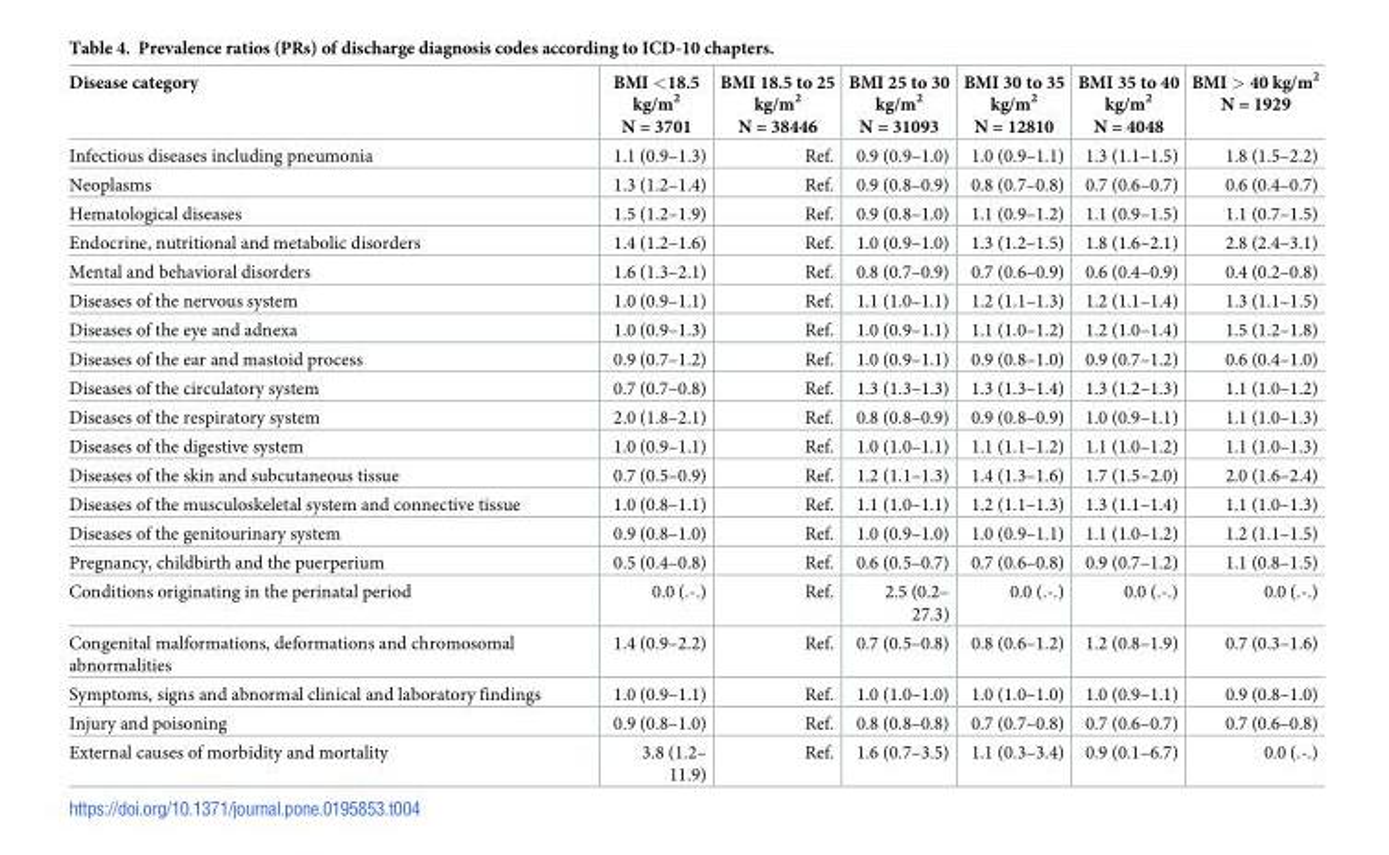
<table><thead><tr><td>Disease category</td><td>BMI &lt;18.5 kg/m<sup>2</sup> N = 3701</td><td>BMI 18.5 to 25 kg/m<sup>2</sup> N = 38446</td><td>BMI 25 to 30 kg/m<sup>2</sup> N = 31093</td><td>BMI 30 to 35 kg/m<sup>2</sup> N = 12810</td><td>BMI 35 to 40 kg/m<sup>2</sup> N = 4048</td><td>BMI &gt; 40 kg/m<sup>2</sup> N = 1929</td></tr></thead><tbody><tr><td>Infectious diseases including pneumonia</td><td>1.1 (0.9–1.3)</td><td>Ref.</td><td>0.9 (0.9–1.0)</td><td>1.0 (0.9–1.1)</td><td>1.3 (1.1–1.5)</td><td>1.8 (1.5–2.2)</td></tr><tr><td>Neoplasms</td><td>1.3 (1.2–1.4)</td><td>Ref.</td><td>0.9 (0.8–0.9)</td><td>0.8 (0.7–0.8)</td><td>0.7 (0.6–0.7)</td><td>0.6 (0.4–0.7)</td></tr><tr><td>Hematological diseases</td><td>1.5 (1.2–1.9)</td><td>Ref.</td><td>0.9 (0.8–1.0)</td><td>1.1 (0.9–1.2)</td><td>1.1 (0.9–1.5)</td><td>1.1 (0.7–1.5)</td></tr><tr><td>Endocrine, nutritional and metabolic disorders</td><td>1.4 (1.2–1.6)</td><td>Ref.</td><td>1.0 (0.9–1.0)</td><td>1.3 (1.2–1.5)</td><td>1.8 (1.6–2.1)</td><td>2.8 (2.4–3.1)</td></tr><tr><td>Mental and behavioral disorders</td><td>1.6 (1.3–2.1)</td><td>Ref.</td><td>0.8 (0.7–0.9)</td><td>0.7 (0.6–0.9)</td><td>0.6 (0.4–0.9)</td><td>0.4 (0.2–0.8)</td></tr><tr><td>Diseases of the nervous system</td><td>1.0 (0.9–1.1)</td><td>Ref.</td><td>1.1 (1.0–1.1)</td><td>1.2 (1.1–1.3)</td><td>1.2 (1.1–1.4)</td><td>1.3 (1.1–1.5)</td></tr><tr><td>Diseases of the eye and adnexa</td><td>1.0 (0.9–1.3)</td><td>Ref.</td><td>1.0 (0.9–1.1)</td><td>1.1 (1.0–1.2)</td><td>1.2 (1.0–1.4)</td><td>1.5 (1.2–1.8)</td></tr><tr><td>Diseases of the ear and mastoid process</td><td>0.9 (0.7–1.2)</td><td>Ref.</td><td>1.0 (0.9–1.1)</td><td>0.9 (0.8–1.0)</td><td>0.9 (0.7–1.2)</td><td>0.6 (0.4–1.0)</td></tr><tr><td>Diseases of the circulatory system</td><td>0.7 (0.7–0.8)</td><td>Ref.</td><td>1.3 (1.3–1.3)</td><td>1.3 (1.3–1.4)</td><td>1.3 (1.2–1.3)</td><td>1.1 (1.0–1.2)</td></tr><tr><td>Diseases of the respiratory system</td><td>2.0 (1.8–2.1)</td><td>Ref.</td><td>0.8 (0.8–0.9)</td><td>0.9 (0.8–0.9)</td><td>1.0 (0.9–1.1)</td><td>1.1 (1.0–1.3)</td></tr><tr><td>Diseases of the digestive system</td><td>1.0 (0.9–1.1)</td><td>Ref.</td><td>1.0 (1.0–1.1)</td><td>1.1 (1.1–1.2)</td><td>1.1 (1.0–1.2)</td><td>1.1 (1.0–1.3)</td></tr><tr><td>Diseases of the skin and subcutaneous tissue</td><td>0.7 (0.5–0.9)</td><td>Ref.</td><td>1.2 (1.1–1.3)</td><td>1.4 (1.3–1.6)</td><td>1.7 (1.5–2.0)</td><td>2.0 (1.6–2.4)</td></tr><tr><td>Diseases of the musculoskeletal system and connective tissue</td><td>1.0 (0.8–1.1)</td><td>Ref.</td><td>1.1 (1.0–1.1)</td><td>1.2 (1.1–1.3)</td><td>1.3 (1.1–1.4)</td><td>1.1 (1.0–1.3)</td></tr><tr><td>Diseases of the genitourinary system</td><td>0.9 (0.8–1.0)</td><td>Ref.</td><td>1.0 (0.9–1.0)</td><td>1.0 (0.9–1.1)</td><td>1.1 (1.0–1.2)</td><td>1.2 (1.1–1.5)</td></tr><tr><td>Pregnancy, childbirth and the puerperium</td><td>0.5 (0.4–0.8)</td><td>Ref.</td><td>0.6 (0.5–0.7)</td><td>0.7 (0.6–0.8)</td><td>0.9 (0.7–1.2)</td><td>1.1 (0.8–1.5)</td></tr><tr><td>Conditions originating in the perinatal period</td><td>0.0 (.-.)</td><td>Ref.</td><td>2.5 (0.2– 27.3)</td><td>0.0 (.-.)</td><td>0.0 (.-.)</td><td>0.0 (.-.)</td></tr><tr><td>Congenital malformations, deformations and chromosomal abnormalities</td><td>1.4 (0.9–2.2)</td><td>Ref.</td><td>0.7 (0.5–0.8)</td><td>0.8 (0.6–1.2)</td><td>1.2 (0.8–1.9)</td><td>0.7 (0.3–1.6)</td></tr><tr><td>Symptoms, signs and abnormal clinical and laboratory findings</td><td>1.0 (0.9–1.1)</td><td>Ref.</td><td>1.0 (1.0–1.0)</td><td>1.0 (1.0–1.0)</td><td>1.0 (0.9–1.1)</td><td>0.9 (0.8–1.0)</td></tr><tr><td>Injury and poisoning</td><td>0.9 (0.8–1.0)</td><td>Ref.</td><td>0.8 (0.8–0.8)</td><td>0.7 (0.7–0.8)</td><td>0.7 (0.6–0.7)</td><td>0.7 (0.6–0.8)</td></tr><tr><td>External causes of morbidity and mortality</td><td>3.8 (1.2– 11.9)</td><td>Ref.</td><td>1.6 (0.7–3.5)</td><td>1.1 (0.3–3.4)</td><td>0.9 (0.1–6.7)</td><td>0.0 (.-.)</td></tr></tbody></table>